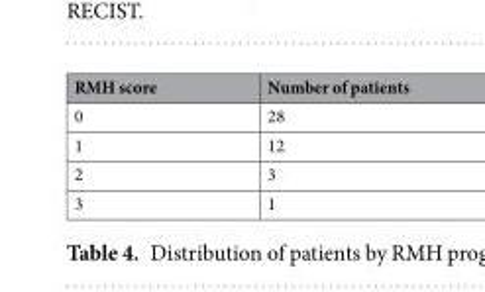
<table><thead><tr><td>RMH score</td><td>Number of patients</td></tr></thead><tbody><tr><td>0</td><td>28</td></tr><tr><td>1</td><td>12</td></tr><tr><td>2</td><td>3</td></tr><tr><td>3</td><td>1</td></tr></tbody></table>